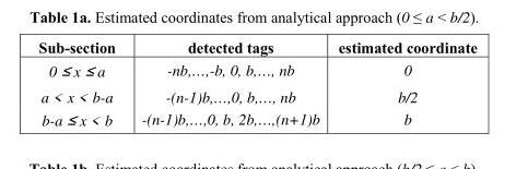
<table><thead><tr><td>Sub-section</td><td>detected tags</td><td>estimated coordinate</td></tr></thead><tbody><tr><td>0 ≤ x ≤ a</td><td>-nb,…,-b, 0, b,…, nb</td><td>0</td></tr><tr><td>a &lt; x &lt; b-a</td><td>-(n-1)b,…,0, b,…, nb</td><td>b/2</td></tr><tr><td>b-a ≤ x &lt; b</td><td>-(n-1)b,…,0, b, 2b,…,(n+1)b</td><td>b</td></tr></tbody></table>